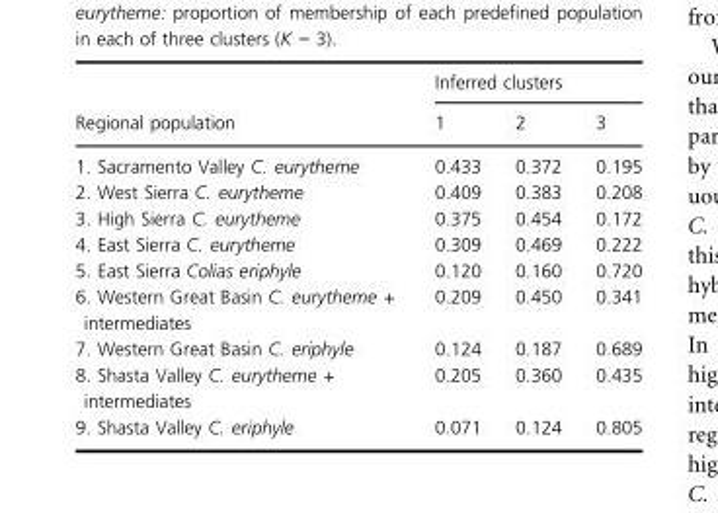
<table><thead><tr><td rowspan="2">Regional population</td><td colspan="3">Inferred clusters</td></tr><tr><td>1</td><td>2</td><td>3</td></tr></thead><tbody><tr><td>1. Sacramento Valley C. eurytheme</td><td>0.433</td><td>0.372</td><td>0.195</td></tr><tr><td>2. West Sierra C. eurytheme</td><td>0.409</td><td>0.383</td><td>0.208</td></tr><tr><td>3. High Sierra C. eurytheme</td><td>0.375</td><td>0.454</td><td>0.172</td></tr><tr><td>4. East Sierra C. eurytheme</td><td>0.309</td><td>0.469</td><td>0.222</td></tr><tr><td>5. East Sierra Colias eriphyle</td><td>0.120</td><td>0.160</td><td>0.720</td></tr><tr><td>6. Western Great Basin C. eurytheme + intermediates</td><td>0.209</td><td>0.450</td><td>0.341</td></tr><tr><td>7. Western Great Basin C. eriphyle</td><td>0.124</td><td>0.187</td><td>0.689</td></tr><tr><td>8. Shasta Valley C. eurytheme + intermediates</td><td>0.205</td><td>0.360</td><td>0.435</td></tr><tr><td>9. Shasta Valley C. eriphyle</td><td>0.071</td><td>0.124</td><td>0.805</td></tr></tbody></table>